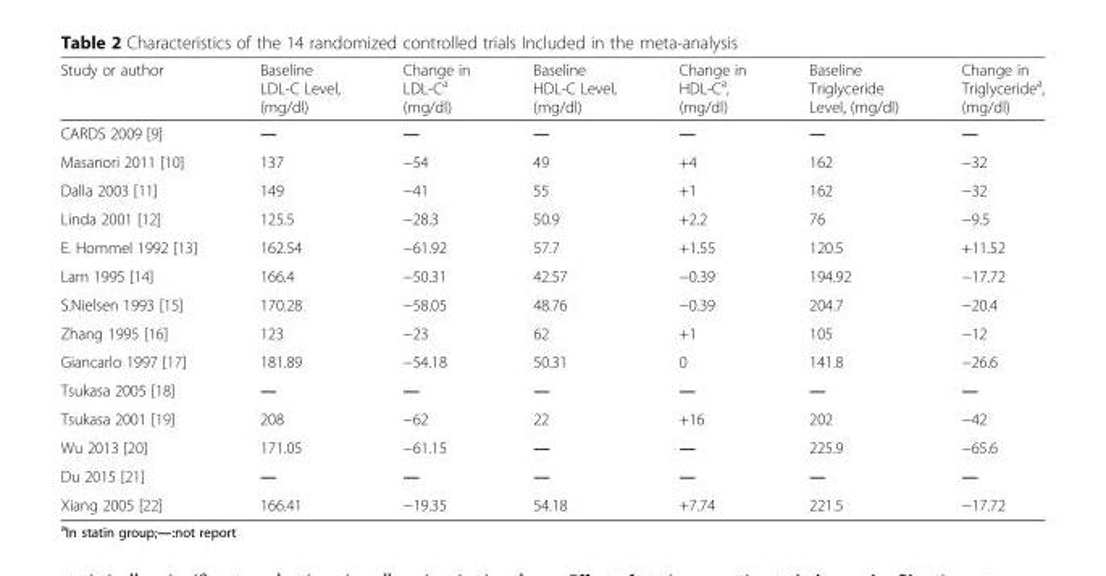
<table><thead><tr><td>Study or author</td><td>Baseline LDL-C Level, (mg/dl)</td><td>Change in LDL-C<sup>a</sup> (mg/dl)</td><td>Baseline HDL-C Level, (mg/dl)</td><td>Change in HDL-C<sup>a</sup>, (mg/dl)</td><td>Baseline Triglyceride Level, (mg/dl)</td><td>Change in Triglyceride<sup>a</sup>, (mg/dl)</td></tr></thead><tbody><tr><td>CARDS 2009 [9]</td><td>—</td><td>—</td><td>—</td><td>—</td><td>—</td><td>—</td></tr><tr><td>Masanori 2011 [10]</td><td>137</td><td>−54</td><td>49</td><td>+4</td><td>162</td><td>−32</td></tr><tr><td>Dalla 2003 [11]</td><td>149</td><td>−41</td><td>55</td><td>+1</td><td>162</td><td>−32</td></tr><tr><td>Linda 2001 [12]</td><td>125.5</td><td>−28.3</td><td>50.9</td><td>+2.2</td><td>76</td><td>−9.5</td></tr><tr><td>E. Hommel 1992 [13]</td><td>162.54</td><td>−61.92</td><td>57.7</td><td>+1.55</td><td>120.5</td><td>+11.52</td></tr><tr><td>Lam 1995 [14]</td><td>166.4</td><td>−50.31</td><td>42.57</td><td>−0.39</td><td>194.92</td><td>−17.72</td></tr><tr><td>S.Nielsen 1993 [15]</td><td>170.28</td><td>−58.05</td><td>48.76</td><td>−0.39</td><td>204.7</td><td>−20.4</td></tr><tr><td>Zhang 1995 [16]</td><td>123</td><td>−23</td><td>62</td><td>+1</td><td>105</td><td>−12</td></tr><tr><td>Giancarlo 1997 [17]</td><td>181.89</td><td>−54.18</td><td>50.31</td><td>0</td><td>141.8</td><td>−26.6</td></tr><tr><td>Tsukasa 2005 [18]</td><td>—</td><td>—</td><td>—</td><td>—</td><td>—</td><td>—</td></tr><tr><td>Tsukasa 2001 [19]</td><td>208</td><td>−62</td><td>22</td><td>+16</td><td>202</td><td>−42</td></tr><tr><td>Wu 2013 [20]</td><td>171.05</td><td>−61.15</td><td>—</td><td>—</td><td>225.9</td><td>−65.6</td></tr><tr><td>Du 2015 [21]</td><td>—</td><td>—</td><td>—</td><td>—</td><td>—</td><td>—</td></tr><tr><td>Xiang 2005 [22]</td><td>166.41</td><td>−19.35</td><td>54.18</td><td>+7.74</td><td>221.5</td><td>−17.72</td></tr></tbody></table>